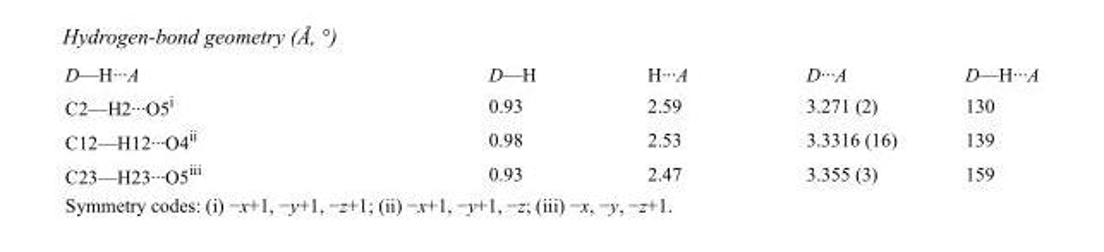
<table><tbody><tr><td>D—H···A</td><td>D—H</td><td>H···A</td><td>D···A</td><td>D—H···A</td></tr><tr><td>C2—H2···O5<sup>i</sup></td><td>0.93</td><td>2.59</td><td>3.271 (2)</td><td>130</td></tr><tr><td>C12—H12···O4<sup>ii</sup></td><td>0.98</td><td>2.53</td><td>3.3316 (16)</td><td>139</td></tr><tr><td>C23—H23···O5<sup>iii</sup></td><td>0.93</td><td>2.47</td><td>3.355 (3)</td><td>159</td></tr></tbody></table>